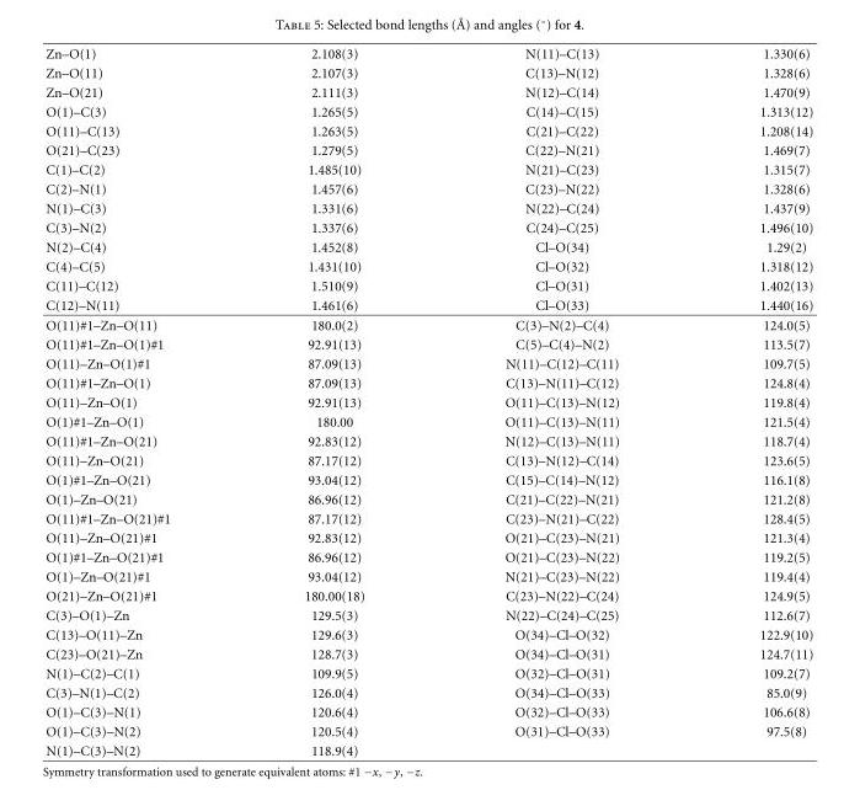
<table><tbody><tr><td>Zn–O(1)</td><td>2.108(3)</td><td>N(11)–C(13)</td><td>1.330(6)</td></tr><tr><td>Zn–O(11)</td><td>2.107(3)</td><td>C(13)–N(12)</td><td>1.328(6)</td></tr><tr><td>Zn–O(21)</td><td>2.111(3)</td><td>N(12)–C(14)</td><td>1.470(9)</td></tr><tr><td>O(1)–C(3)</td><td>1.265(5)</td><td>C(14)–C(15)</td><td>1.313(12)</td></tr><tr><td>O(11)–C(13)</td><td>1.263(5)</td><td>C(21)–C(22)</td><td>1.208(14)</td></tr><tr><td>O(21)–C(23)</td><td>1.279(5)</td><td>C(22)–N(21)</td><td>1.469(7)</td></tr><tr><td>C(1)–C(2)</td><td>1.485(10)</td><td>N(21)–C(23)</td><td>1.315(7)</td></tr><tr><td>C(2)–N(1)</td><td>1.457(6)</td><td>C(23)–N(22)</td><td>1.328(6)</td></tr><tr><td>N(1)–C(3)</td><td>1.331(6)</td><td>N(22)–C(24)</td><td>1.437(9)</td></tr><tr><td>C(3)–N(2)</td><td>1.337(6)</td><td>C(24)–C(25)</td><td>1.496(10)</td></tr><tr><td>N(2)–C(4)</td><td>1.452(8)</td><td>Cl–O(34)</td><td>1.29(2)</td></tr><tr><td>C(4)–C(5)</td><td>1.431(10)</td><td>Cl–O(32)</td><td>1.318(12)</td></tr><tr><td>C(11)–C(12)</td><td>1.510(9)</td><td>Cl–O(31)</td><td>1.402(13)</td></tr><tr><td>C(12)–N(11)</td><td>1.461(6)</td><td>Cl–O(33)</td><td>1.440(16)</td></tr><tr><td>O(11)#1–Zn–O(11)</td><td>180.0(2)</td><td>C(3)–N(2)–C(4)</td><td>124.0(5)</td></tr><tr><td>O(11)#1–Zn–O(1)#1</td><td>92.91(13)</td><td>C(5)–C(4)–N(2)</td><td>113.5(7)</td></tr><tr><td>O(11)–Zn–O(1)#1</td><td>87.09(13)</td><td>N(11)–C(12)–C(11)</td><td>109.7(5)</td></tr><tr><td>O(11)#1–Zn–O(1)</td><td>87.09(13)</td><td>C(13)–N(11)–C(12)</td><td>124.8(4)</td></tr><tr><td>O(11)–Zn–O(1)</td><td>92.91(13)</td><td>O(11)–C(13)–N(12)</td><td>119.8(4)</td></tr><tr><td>O(1)#1–Zn–O(1)</td><td>180.00</td><td>O(11)–C(13)–N(11)</td><td>121.5(4)</td></tr><tr><td>O(11)#1–Zn–O(21)</td><td>92.83(12)</td><td>N(12)–C(13)–N(11)</td><td>118.7(4)</td></tr><tr><td>O(11)–Zn–O(21)</td><td>87.17(12)</td><td>C(13)–N(12)–C(14)</td><td>123.6(5)</td></tr><tr><td>O(1)#1–Zn–O(21)</td><td>93.04(12)</td><td>C(15)–C(14)–N(12)</td><td>116.1(8)</td></tr><tr><td>O(1)–Zn–O(21)</td><td>86.96(12)</td><td>C(21)–C(22)–N(21)</td><td>121.2(8)</td></tr><tr><td>O(11)#1–Zn–O(21)#1</td><td>87.17(12)</td><td>C(23)–N(21)–C(22)</td><td>128.4(5)</td></tr><tr><td>O(11)–Zn–O(21)#1</td><td>92.83(12)</td><td>O(21)–C(23)–N(21)</td><td>121.3(4)</td></tr><tr><td>O(1)#1–Zn–O(21)#1</td><td>86.96(12)</td><td>O(21)–C(23)–N(22)</td><td>119.2(5)</td></tr><tr><td>O(1)–Zn–O(21)#1</td><td>93.04(12)</td><td>N(21)–C(23)–N(22)</td><td>119.4(4)</td></tr><tr><td>O(21)–Zn–O(21)#1</td><td>180.00(18)</td><td>C(23)–N(22)–C(24)</td><td>124.9(5)</td></tr><tr><td>C(3)–O(1)–Zn</td><td>129.5(3)</td><td>N(22)–C(24)–C(25)</td><td>112.6(7)</td></tr><tr><td>C(13)–O(11)–Zn</td><td>129.6(3)</td><td>O(34)–Cl–O(32)</td><td>122.9(10)</td></tr><tr><td>C(23)–O(21)–Zn</td><td>128.7(3)</td><td>O(34)–Cl–O(31)</td><td>124.7(11)</td></tr><tr><td>N(1)–C(2)–C(1)</td><td>109.9(5)</td><td>O(32)–Cl–O(31)</td><td>109.2(7)</td></tr><tr><td>C(3)–N(1)–C(2)</td><td>126.0(4)</td><td>O(34)–Cl–O(33)</td><td>85.0(9)</td></tr><tr><td>O(1)–C(3)–N(1)</td><td>120.6(4)</td><td>O(32)–Cl–O(33)</td><td>106.6(8)</td></tr><tr><td>O(1)–C(3)–N(2)</td><td>120.5(4)</td><td>O(31)–Cl–O(33)</td><td>97.5(8)</td></tr><tr><td>N(1)–C(3)–N(2)</td><td>118.9(4)</td><td></td><td></td></tr></tbody></table>